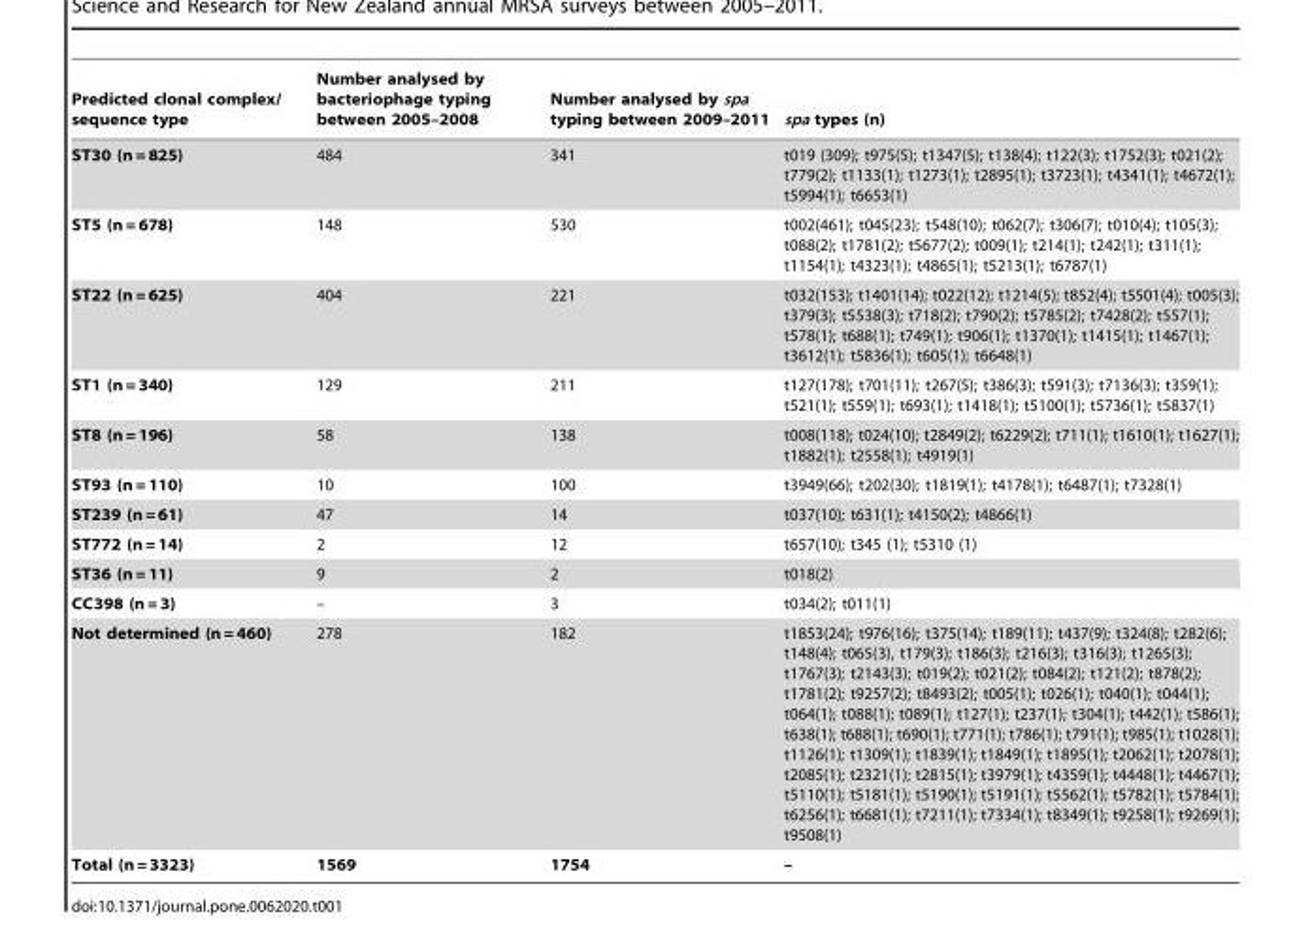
<table><thead><tr><td>Predicted clonal complex/ sequence type</td><td>Number analysed by bacteriophage typing between 2005–2008</td><td>Number analysed by spa typing between 2009–2011</td><td>spa types (n)</td></tr></thead><tbody><tr><td>ST30 (n = 825)</td><td>484</td><td>341</td><td>t019 (309); t975(5); t1347(5); t138(4); t122(3); t1752(3); t021(2); t779(2); t1133(1); t1273(1); t2895(1); t3723(1); t4341(1); t4672(1); t5994(1); t6653(1)</td></tr><tr><td>ST5 (n = 678)</td><td>148</td><td>530</td><td>t002(461); t045(23); t548(10); t062(7); t306(7); t010(4); t105(3); t088(2); t1781(2); t5677(2); t009(1); t214(1); t242(1); t311(1); t1154(1); t4323(1); t4865(1); t5213(1); t6787(1)</td></tr><tr><td>ST22 (n = 625)</td><td>404</td><td>221</td><td>t032(153); t1401(14); t022(12); t1214(5); t852(4); t5501(4); t005(3); t379(3); t5538(3); t718(2); t790(2); t5785(2); t7428(2); t557(1); t578(1); t688(1); t749(1); t906(1); t1370(1); t1415(1); t1467(1); t3612(1); t5836(1); t605(1); t6648(1)</td></tr><tr><td>ST1 (n = 340)</td><td>129</td><td>211</td><td>t127(178); t701(11); t267(5); t386(3); t591(3); t7136(3); t359(1); t521(1); t559(1); t693(1); t1418(1); t5100(1); t5736(1); t5837(1)</td></tr><tr><td>ST8 (n = 196)</td><td>58</td><td>138</td><td>t008(118); t024(10); t2849(2); t6229(2); t711(1); t1610(1); t1627(1); t1882(1); t2558(1); t4919(1)</td></tr><tr><td>ST93 (n = 110)</td><td>10</td><td>100</td><td>t3949(66); t202(30); t1819(1); t4178(1); t6487(1); t7328(1)</td></tr><tr><td>ST239 (n = 61)</td><td>47</td><td>14</td><td>t037(10); t631(1); t4150(2); t4866(1)</td></tr><tr><td>ST772 (n = 14)</td><td>2</td><td>12</td><td>t657(10); t345 (1); t5310 (1)</td></tr><tr><td>ST36 (n = 11)</td><td>9</td><td>2</td><td>t018(2)</td></tr><tr><td>CC398 (n = 3)</td><td>–</td><td>3</td><td>t034(2); t011(1)</td></tr><tr><td>Not determined (n = 460)</td><td>278</td><td>182</td><td>t1853(24); t976(16); t375(14); t189(11); t437(9); t324(8); t282(6); t148(4); t065(3), t179(3); t186(3); t216(3); t316(3); t1265(3); t1767(3); t2143(3); t019(2); t021(2); t084(2); t121(2); t878(2); t1781(2); t9257(2); t8493(2); t005(1); t026(1); t040(1); t044(1); t064(1); t088(1); t089(1); t127(1); t237(1); t304(1); t442(1); t586(1); t638(1); t688(1); t690(1); t771(1); t786(1); t791(1); t985(1); t1028(1); t1126(1); t1309(1); t1839(1); t1849(1); t1895(1); t2062(1); t2078(1); t2085(1); t2321(1); t2815(1); t3979(1); t4359(1); t4448(1); t4467(1); t5110(1); t5181(1); t5190(1); t5191(1); t5562(1); t5782(1); t5784(1); t6256(1); t6681(1); t7211(1); t7334(1); t8349(1); t9258(1); t9269(1); t9508(1)</td></tr><tr><td>Total (n = 3323)</td><td>1569</td><td>1754</td><td>–</td></tr></tbody></table>